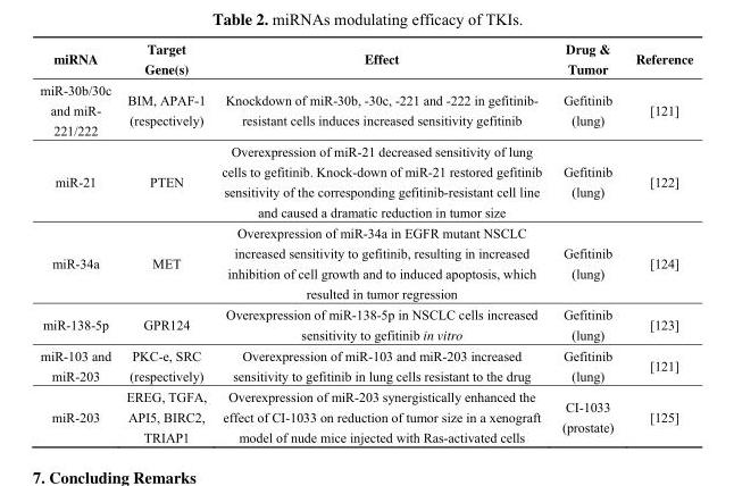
<table><thead><tr><td>miRNA</td><td>Target Gene(s)</td><td>Effect</td><td>Drug &amp; Tumor</td><td>Reference</td></tr></thead><tbody><tr><td>miR-30b/30c and miR- 221/222</td><td>BIM, APAF-1 (respectively)</td><td>Knockdown of miR-30b, -30c, -221 and -222 in gefitinib- resistant cells induces increased sensitivity gefitinib</td><td>Gefitinib (lung)</td><td>[121]</td></tr><tr><td>miR-21</td><td>PTEN</td><td>Overexpression of miR-21 decreased sensitivity of lung cells to gefitinib. Knock-down of miR-21 restored gefitinib sensitivity of the corresponding gefitinib-resistant cell line and caused a dramatic reduction in tumor size</td><td>Gefitinib (lung)</td><td>[122]</td></tr><tr><td>miR-34a</td><td>MET</td><td>Overexpression of miR-34a in EGFR mutant NSCLC increased sensitivity to gefitinib, resulting in increased inhibition of cell growth and to induced apoptosis, which resulted in tumor regression</td><td>Gefitinib (lung)</td><td>[124]</td></tr><tr><td>miR-138-5p</td><td>GPR124</td><td>Overexpression of miR-138-5p in NSCLC cells increased sensitivity to gefitinib in vitro</td><td>Gefitinib (lung)</td><td>[123]</td></tr><tr><td>miR-103 and miR-203</td><td>PKC-e, SRC (respectively)</td><td>Overexpression of miR-103 and miR-203 increased sensitivity to gefitinib in lung cells resistant to the drug</td><td>Gefitinib (lung)</td><td>[121]</td></tr><tr><td>miR-203</td><td>EREG, TGFA, API5, BIRC2, TRIAP1</td><td>Overexpression of miR-203 synergistically enhanced the effect of CI-1033 on reduction of tumor size in a xenograft model of nude mice injected with Ras-activated cells</td><td>CI-1033 (prostate)</td><td>[125]</td></tr></tbody></table>